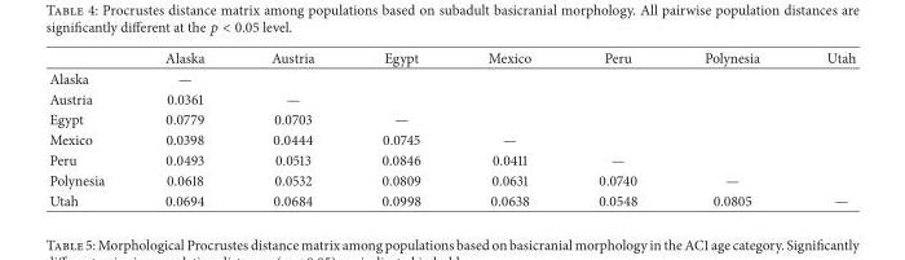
<table><thead><tr><td></td><td>Alaska</td><td>Austria</td><td>Egypt</td><td>Mexico</td><td>Peru</td><td>Polynesia</td><td>Utah</td></tr></thead><tbody><tr><td>Alaska</td><td>—</td><td></td><td></td><td></td><td></td><td></td><td></td></tr><tr><td>Austria</td><td>0.0361</td><td>—</td><td></td><td></td><td></td><td></td><td></td></tr><tr><td>Egypt</td><td>0.0779</td><td>0.0703</td><td>—</td><td></td><td></td><td></td><td></td></tr><tr><td>Mexico</td><td>0.0398</td><td>0.0444</td><td>0.0745</td><td>—</td><td></td><td></td><td></td></tr><tr><td>Peru</td><td>0.0493</td><td>0.0513</td><td>0.0846</td><td>0.0411</td><td>—</td><td></td><td></td></tr><tr><td>Polynesia</td><td>0.0618</td><td>0.0532</td><td>0.0809</td><td>0.0631</td><td>0.0740</td><td>—</td><td></td></tr><tr><td>Utah</td><td>0.0694</td><td>0.0684</td><td>0.0998</td><td>0.0638</td><td>0.0548</td><td>0.0805</td><td>—</td></tr></tbody></table>